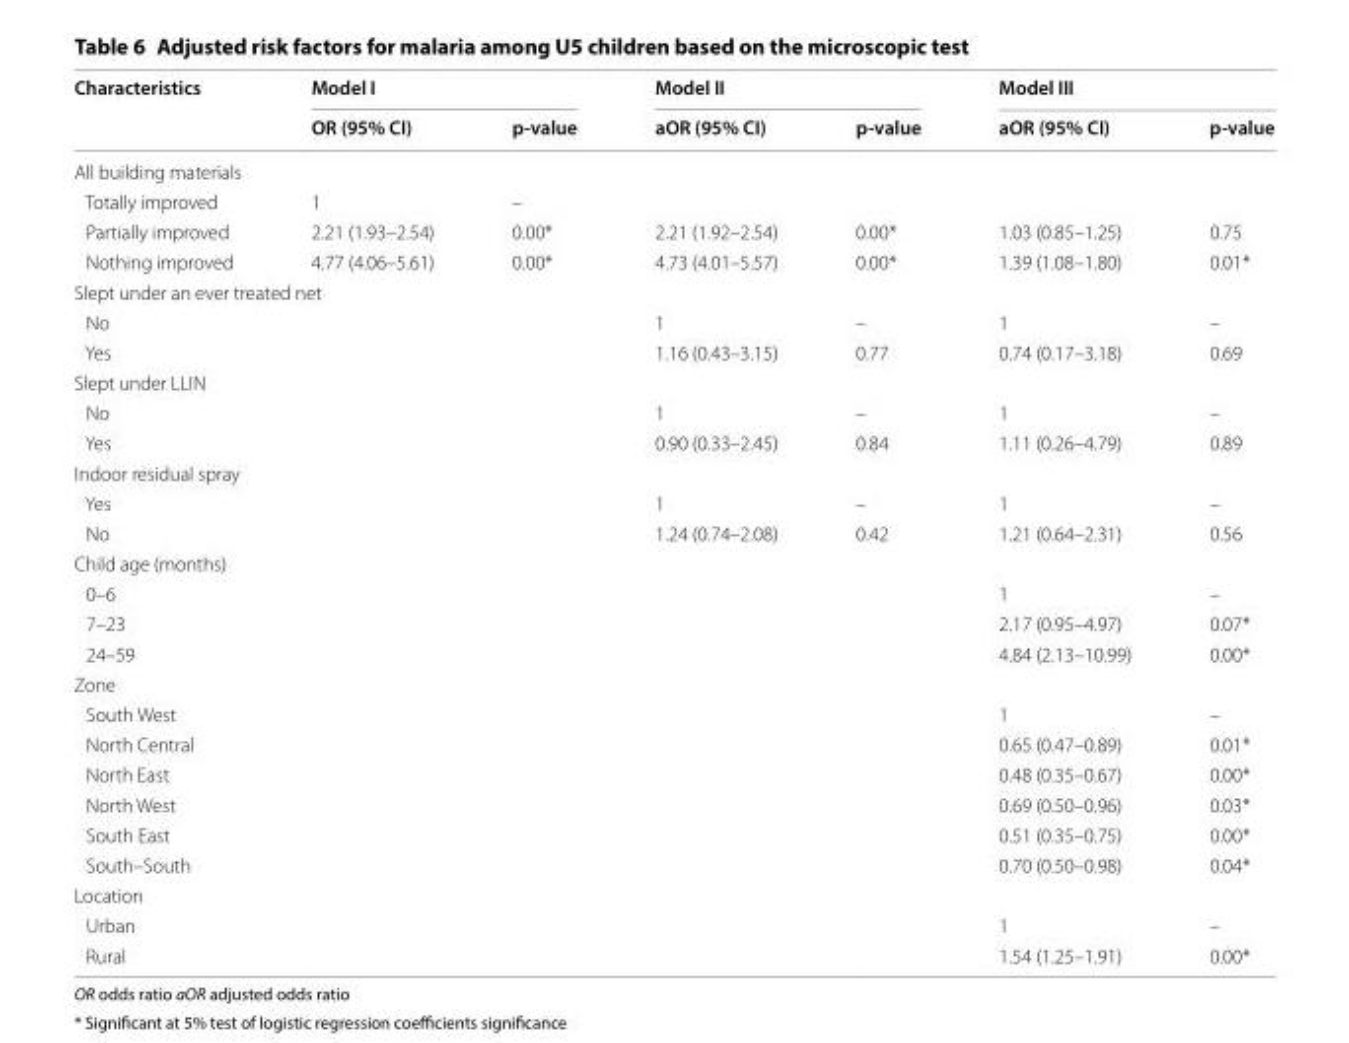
<table><thead><tr><td rowspan="2">Characteristics</td><td colspan="2">Model I</td><td colspan="2">Model II</td><td colspan="2">Model III</td></tr><tr><td>OR (95% CI)</td><td>p-value</td><td>aOR (95% CI)</td><td>p-value</td><td>aOR (95% CI)</td><td>p-value</td></tr></thead><tbody><tr><td colspan="7">All building materials</td></tr><tr><td>Totally improved</td><td>1</td><td>–</td><td></td><td></td><td></td><td></td></tr><tr><td>Partially improved</td><td>2.21 (1.93–2.54)</td><td>0.00*</td><td>2.21 (1.92–2.54)</td><td>0.00*</td><td>1.03 (0.85–1.25)</td><td>0.75</td></tr><tr><td>Nothing improved</td><td>4.77 (4.06–5.61)</td><td>0.00*</td><td>4.73 (4.01–5.57)</td><td>0.00*</td><td>1.39 (1.08–1.80)</td><td>0.01*</td></tr><tr><td colspan="7">Slept under an ever treated net</td></tr><tr><td>No</td><td></td><td></td><td>1</td><td>–</td><td>1</td><td>–</td></tr><tr><td>Yes</td><td></td><td></td><td>1.16 (0.43–3.15)</td><td>0.77</td><td>0.74 (0.17–3.18)</td><td>0.69</td></tr><tr><td colspan="7">Slept under LLIN</td></tr><tr><td>No</td><td></td><td></td><td>1</td><td>–</td><td>1</td><td>–</td></tr><tr><td>Yes</td><td></td><td></td><td>0.90 (0.33–2.45)</td><td>0.84</td><td>1.11 (0.26–4.79)</td><td>0.89</td></tr><tr><td colspan="7">Indoor residual spray</td></tr><tr><td>Yes</td><td></td><td></td><td>1</td><td>–</td><td>1</td><td>–</td></tr><tr><td>No</td><td></td><td></td><td>1.24 (0.74–2.08)</td><td>0.42</td><td>1.21 (0.64–2.31)</td><td>0.56</td></tr><tr><td colspan="7">Child age (months)</td></tr><tr><td>0–6</td><td></td><td></td><td></td><td></td><td>1</td><td>–</td></tr><tr><td>7–23</td><td></td><td></td><td></td><td></td><td>2.17 (0.95–4.97)</td><td>0.07*</td></tr><tr><td>24–59</td><td></td><td></td><td></td><td></td><td>4.84 (2.13–10.99)</td><td>0.00*</td></tr><tr><td colspan="7">Zone</td></tr><tr><td>South West</td><td></td><td></td><td></td><td></td><td>1</td><td>–</td></tr><tr><td>North Central</td><td></td><td></td><td></td><td></td><td>0.65 (0.47–0.89)</td><td>0.01*</td></tr><tr><td>North East</td><td></td><td></td><td></td><td></td><td>0.48 (0.35–0.67)</td><td>0.00*</td></tr><tr><td>North West</td><td></td><td></td><td></td><td></td><td>0.69 (0.50–0.96)</td><td>0.03*</td></tr><tr><td>South East</td><td></td><td></td><td></td><td></td><td>0.51 (0.35–0.75)</td><td>0.00*</td></tr><tr><td>South–South</td><td></td><td></td><td></td><td></td><td>0.70 (0.50–0.98)</td><td>0.04*</td></tr><tr><td colspan="7">Location</td></tr><tr><td>Urban</td><td></td><td></td><td></td><td></td><td>1</td><td>–</td></tr><tr><td>Rural</td><td></td><td></td><td></td><td></td><td>1.54 (1.25–1.91)</td><td>0.00*</td></tr></tbody></table>